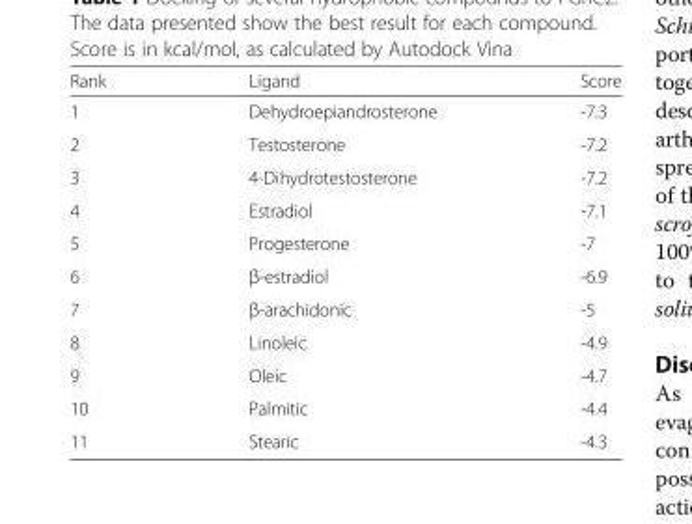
<table><thead><tr><td>Rank</td><td>Ligand</td><td>Score</td></tr></thead><tbody><tr><td>1</td><td>Dehydroepiandrosterone</td><td>-7.3</td></tr><tr><td>2</td><td>Testosterone</td><td>-7.2</td></tr><tr><td>3</td><td>4-Dihydrotestosterone</td><td>-7.2</td></tr><tr><td>4</td><td>Estradiol</td><td>-7.1</td></tr><tr><td>5</td><td>Progesterone</td><td>-7</td></tr><tr><td>6</td><td>β-estradiol</td><td>-6.9</td></tr><tr><td>7</td><td>β-arachidonic</td><td>-5</td></tr><tr><td>8</td><td>Linoleic</td><td>-4.9</td></tr><tr><td>9</td><td>Oleic</td><td>-4.7</td></tr><tr><td>10</td><td>Palmitic</td><td>-4.4</td></tr><tr><td>11</td><td>Stearic</td><td>-4.3</td></tr></tbody></table>